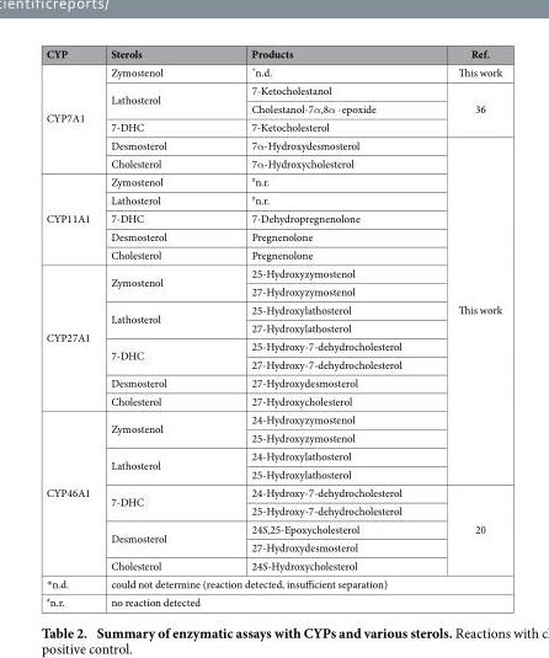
<table><thead><tr><td>CYP</td><td>Sterols</td><td>Products</td><td>Ref.</td></tr></thead><tbody><tr><td rowspan="6">CYP7A1</td><td>Zymostenol</td><td>*n.d.</td><td>This work</td></tr><tr><td rowspan="2">Lathosterol</td><td>7-Ketocholestanol</td><td rowspan="3">36</td></tr><tr><td>Cholestanol-7α,8α -epoxide</td></tr><tr><td>7-DHC</td><td>7-Ketocholesterol</td></tr><tr><td>Desmosterol</td><td>7α -Hydroxydesmosterol</td><td rowspan="19">This work</td></tr><tr><td>Cholesterol</td><td>7α -Hydroxycholesterol</td></tr><tr><td rowspan="5">CYP11A1</td><td>Zymostenol</td><td><sup>#</sup>n.r.</td></tr><tr><td>Lathosterol</td><td><sup>#</sup>n.r.</td></tr><tr><td>7-DHC</td><td>7-Dehydropregnenolone</td></tr><tr><td>Desmosterol</td><td>Pregnenolone</td></tr><tr><td>Cholesterol</td><td>Pregnenolone</td></tr><tr><td rowspan="8">CYP27A1</td><td rowspan="2">Zymostenol</td><td>25-Hydroxyzymostenol</td></tr><tr><td>27-Hydroxyzymostenol</td></tr><tr><td rowspan="2">Lathosterol</td><td>25-Hydroxylathosterol</td></tr><tr><td>27-Hydroxylathosterol</td></tr><tr><td rowspan="2">7-DHC</td><td>25-Hydroxy-7-dehydrocholesterol</td></tr><tr><td>27-Hydroxy-7-dehydrocholesterol</td></tr><tr><td>Desmosterol</td><td>27-Hydroxydesmosterol</td></tr><tr><td>Cholesterol</td><td>27-Hydroxycholesterol</td></tr><tr><td rowspan="9">CYP46A1</td><td rowspan="2">Zymostenol</td><td>24-Hydroxyzymostenol</td></tr><tr><td>25-Hydroxyzymostenol</td></tr><tr><td rowspan="2">Lathosterol</td><td>24-Hydroxylathosterol</td></tr><tr><td>25-Hydroxylathosterol</td></tr><tr><td rowspan="2">7-DHC</td><td>24-Hydroxy-7-dehydrocholesterol</td><td rowspan="5">20</td></tr><tr><td>25-Hydroxy-7-dehydrocholesterol</td></tr><tr><td rowspan="2">Desmosterol</td><td>24S,25-Epoxycholesterol</td></tr><tr><td>27-Hydroxydesmosterol</td></tr><tr><td>Cholesterol</td><td>24S-Hydroxycholesterol</td></tr><tr><td>* n.d.</td><td colspan="3">could not determine (reaction detected, insufficient separation)</td></tr><tr><td><sup>#</sup>n.r.</td><td colspan="3">no reaction detected</td></tr></tbody></table>